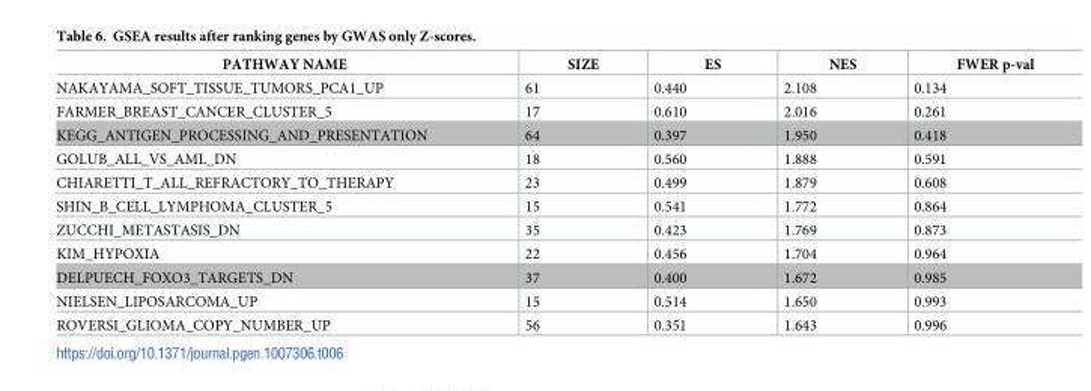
<table><thead><tr><td>PATHWAY NAME</td><td>SIZE</td><td>ES</td><td>NES</td><td>FWER p-val</td></tr></thead><tbody><tr><td>NAKAYAMA_SOFT_TISSUE_TUMORS_PCA1_UP</td><td>61</td><td>0.440</td><td>2.108</td><td>0.134</td></tr><tr><td>FARMER_BREAST_CANCER_CLUSTER_5</td><td>17</td><td>0.610</td><td>2.016</td><td>0.261</td></tr><tr><td>KEGG_ANTIGEN_PROCESSING_AND_PRESENTATION</td><td>64</td><td>0.397</td><td>1.950</td><td>0.418</td></tr><tr><td>GOLUB_ALL_VS_AML_DN</td><td>18</td><td>0.560</td><td>1.888</td><td>0.591</td></tr><tr><td>CHIARETTI_T_ALL_REFRACTORY_TO_THERAPY</td><td>23</td><td>0.499</td><td>1.879</td><td>0.608</td></tr><tr><td>SHIN_B_CELL_LYMPHOMA_CLUSTER_5</td><td>15</td><td>0.541</td><td>1.772</td><td>0.864</td></tr><tr><td>ZUCCHI_METASTASIS_DN</td><td>35</td><td>0.423</td><td>1.769</td><td>0.873</td></tr><tr><td>KIM_HYPOXIA</td><td>22</td><td>0.456</td><td>1.704</td><td>0.964</td></tr><tr><td>DELPUECH_FOXO3_TARGETS_DN</td><td>37</td><td>0.400</td><td>1.672</td><td>0.985</td></tr><tr><td>NIELSEN_LIPOSARCOMA_UP</td><td>15</td><td>0.514</td><td>1.650</td><td>0.993</td></tr><tr><td>ROVERSI_GLIOMA_COPY_NUMBER_UP</td><td>56</td><td>0.351</td><td>1.643</td><td>0.996</td></tr></tbody></table>